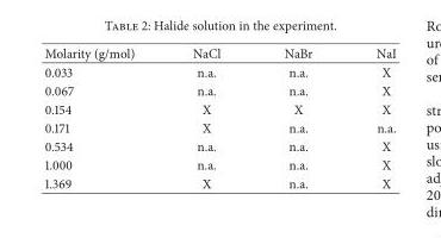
<table><thead><tr><td>Molarity (g/mol)</td><td>NaCl</td><td>NaBr</td><td>NaI</td></tr></thead><tbody><tr><td>0.033</td><td>n.a.</td><td>n.a.</td><td>X</td></tr><tr><td>0.067</td><td>n.a.</td><td>n.a.</td><td>X</td></tr><tr><td>0.154</td><td>X</td><td>X</td><td>X</td></tr><tr><td>0.171</td><td>X</td><td>n.a.</td><td>n.a.</td></tr><tr><td>0.534</td><td>n.a.</td><td>n.a.</td><td>X</td></tr><tr><td>1.000</td><td>n.a.</td><td>n.a.</td><td>X</td></tr><tr><td>1.369</td><td>X</td><td>n.a.</td><td>X</td></tr></tbody></table>